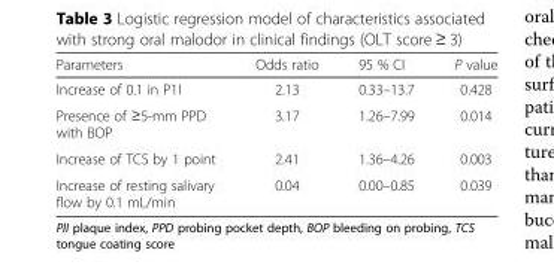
<table><thead><tr><td>Parameters</td><td>Odds ratio</td><td>95 % CI</td><td>P value</td></tr></thead><tbody><tr><td>Increase of 0.1 in P1I</td><td>2.13</td><td>0.33–13.7</td><td>0.428</td></tr><tr><td>Presence of ≥5-mm PPD with BOP</td><td>3.17</td><td>1.26–7.99</td><td>0.014</td></tr><tr><td>Increase of TCS by 1 point</td><td>2.41</td><td>1.36–4.26</td><td>0.003</td></tr><tr><td>Increase of resting salivary flow by 0.1 mL/min</td><td>0.04</td><td>0.00–0.85</td><td>0.039</td></tr></tbody></table>